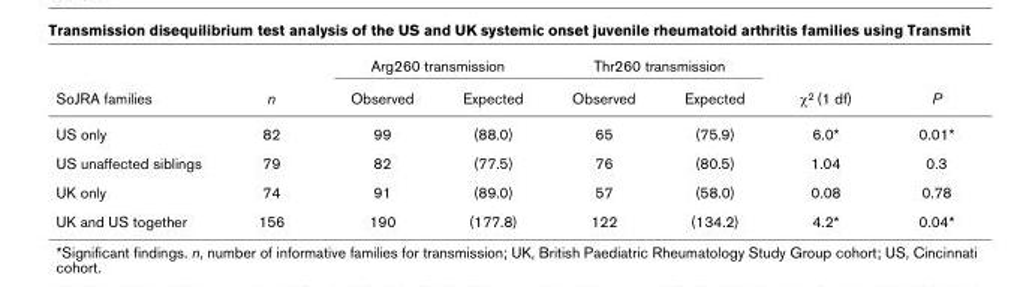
<table><thead><tr><td rowspan="2">SoJRA families</td><td rowspan="2">n</td><td colspan="2">Arg260 transmission</td><td colspan="2">Thr260 transmission</td><td rowspan="2">χ2 (1 df)</td><td rowspan="2">P</td></tr><tr><td>Observed</td><td>Expected</td><td>Observed</td><td>Expected</td></tr></thead><tbody><tr><td>US only</td><td>82</td><td>99</td><td>(88.0)</td><td>65</td><td>(75.9)</td><td>6.0*</td><td>0.01*</td></tr><tr><td>US unaffected siblings</td><td>79</td><td>82</td><td>(77.5)</td><td>76</td><td>(80.5)</td><td>1.04</td><td>0.3</td></tr><tr><td>UK only</td><td>74</td><td>91</td><td>(89.0)</td><td>57</td><td>(58.0)</td><td>0.08</td><td>0.78</td></tr><tr><td>UK and US together</td><td>156</td><td>190</td><td>(177.8)</td><td>122</td><td>(134.2)</td><td>4.2*</td><td>0.04*</td></tr></tbody></table>